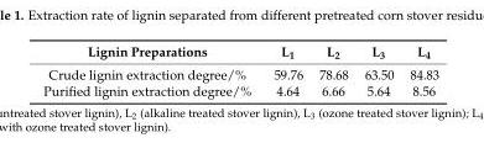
<table><thead><tr><td>Lignin Preparations</td><td>L<sub>1</sub></td><td>L<sub>2</sub></td><td>L<sub>3</sub></td><td>L<sub>4</sub></td></tr></thead><tbody><tr><td>Crude lignin extraction degree/%</td><td>59.76</td><td>78.68</td><td>63.50</td><td>84.83</td></tr><tr><td>Purified lignin extraction degree/%</td><td>4.64</td><td>6.66</td><td>5.64</td><td>8.56</td></tr></tbody></table>